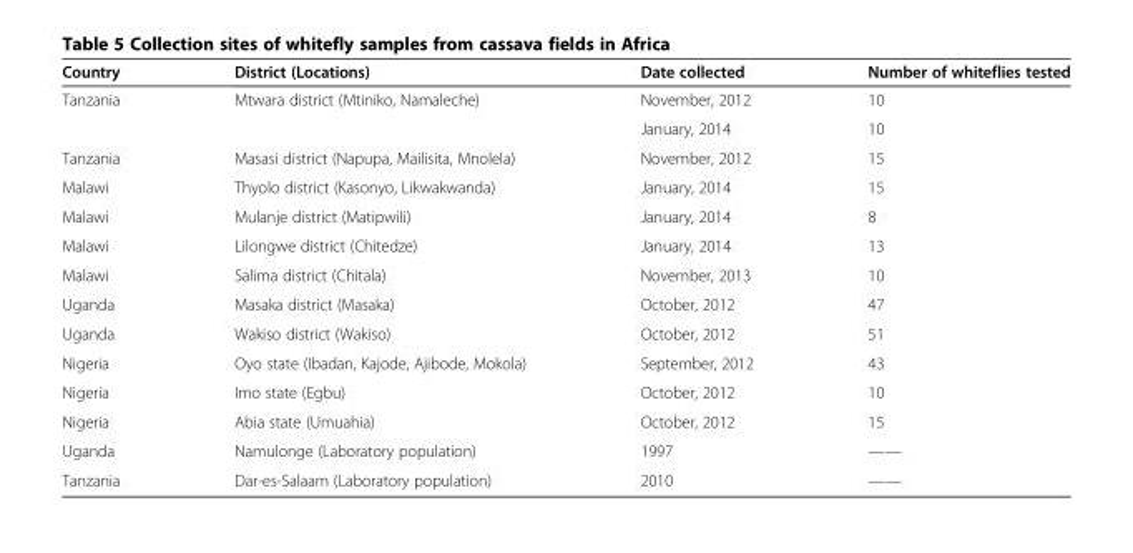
<table><thead><tr><td>Country</td><td>District (Locations)</td><td>Date collected</td><td>Number of whiteflies tested</td></tr></thead><tbody><tr><td rowspan="2">Tanzania</td><td rowspan="2">Mtwara district (Mtiniko, Namaleche)</td><td>November, 2012</td><td>10</td></tr><tr><td>January, 2014</td><td>10</td></tr><tr><td>Tanzania</td><td>Masasi district (Napupa, Mailisita, Mnolela)</td><td>November, 2012</td><td>15</td></tr><tr><td>Malawi</td><td>Thyolo district (Kasonyo, Likwakwanda)</td><td>January, 2014</td><td>15</td></tr><tr><td>Malawi</td><td>Mulanje district (Matipwili)</td><td>January, 2014</td><td>8</td></tr><tr><td>Malawi</td><td>Lilongwe district (Chitedze)</td><td>January, 2014</td><td>13</td></tr><tr><td>Malawi</td><td>Salima district (Chitala)</td><td>November, 2013</td><td>10</td></tr><tr><td>Uganda</td><td>Masaka district (Masaka)</td><td>October, 2012</td><td>47</td></tr><tr><td>Uganda</td><td>Wakiso district (Wakiso)</td><td>October, 2012</td><td>51</td></tr><tr><td>Nigeria</td><td>Oyo state (Ibadan, Kajode, Ajibode, Mokola)</td><td>September, 2012</td><td>43</td></tr><tr><td>Nigeria</td><td>Imo state (Egbu)</td><td>October, 2012</td><td>10</td></tr><tr><td>Nigeria</td><td>Abia state (Umuahia)</td><td>October, 2012</td><td>15</td></tr><tr><td>Uganda</td><td>Namulonge (Laboratory population)</td><td>1997</td><td>——</td></tr><tr><td>Tanzania</td><td>Dar-es-Salaam (Laboratory population)</td><td>2010</td><td>——</td></tr></tbody></table>